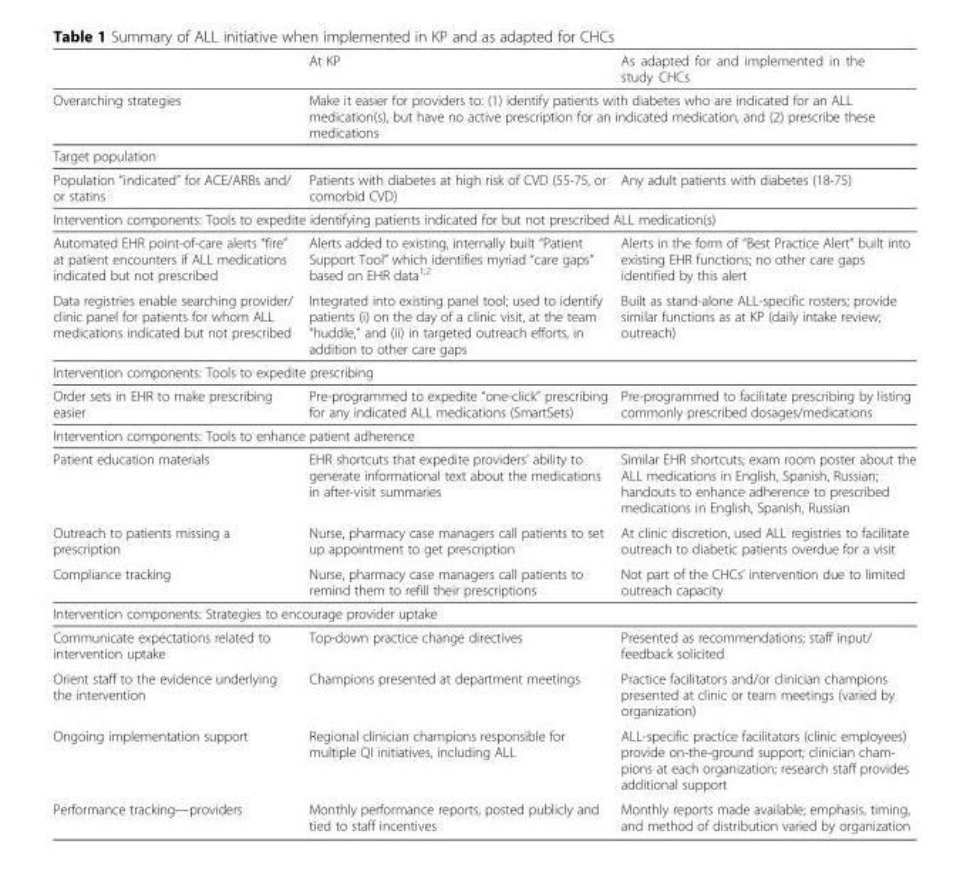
<table><thead><tr><td></td><td>At KP</td><td>As adapted for and implemented in the study CHCs</td></tr></thead><tbody><tr><td>Overarching strategies</td><td colspan="2">Make it easier for providers to: (1) identify patients with diabetes who are indicated for an ALL medication(s), but have no active prescription for an indicated medication, and (2) prescribe these medications</td></tr><tr><td colspan="3">Target population</td></tr><tr><td>Population “indicated” for ACE/ARBs and/ or statins</td><td>Patients with diabetes at high risk of CVD (55-75, or comorbid CVD)</td><td>Any adult patients with diabetes (18-75)</td></tr><tr><td colspan="3">Intervention components: Tools to expedite identifying patients indicated for but not prescribed ALL medication(s)</td></tr><tr><td>Automated EHR point-of-care alerts “fire” at patient encounters if ALL medications indicated but not prescribed</td><td>Alerts added to existing, internally built “Patient Support Tool” which identifies myriad “care gaps” based on EHR data<sup>1;2</sup></td><td>Alerts in the form of “Best Practice Alert” built into existing EHR functions; no other care gaps identified by this alert</td></tr><tr><td>Data registries enable searching provider/ clinic panel for patients for whom ALL medications indicated but not prescribed</td><td>Integrated into existing panel tool; used to identify patients (i) on the day of a clinic visit, at the team “huddle,” and (ii) in targeted outreach efforts, in addition to other care gaps</td><td>Built as stand-alone ALL-specific rosters; provide similar functions as at KP (daily intake review; outreach)</td></tr><tr><td colspan="3">Intervention components: Tools to expedite prescribing</td></tr><tr><td>Order sets in EHR to make prescribing easier</td><td>Pre-programmed to expedite “one-click” prescribing for any indicated ALL medications (SmartSets)</td><td>Pre-programmed to facilitate prescribing by listing commonly prescribed dosages/medications</td></tr><tr><td colspan="3">Intervention components: Tools to enhance patient adherence</td></tr><tr><td>Patient education materials</td><td>EHR shortcuts that expedite providers’ ability to generate informational text about the medications in after-visit summaries</td><td>Similar EHR shortcuts; exam room poster about the ALL medications in English, Spanish, Russian; handouts to enhance adherence to prescribed medications in English, Spanish, Russian</td></tr><tr><td>Outreach to patients missing a prescription</td><td>Nurse, pharmacy case managers call patients to set up appointment to get prescription</td><td>At clinic discretion, used ALL registries to facilitate outreach to diabetic patients overdue for a visit</td></tr><tr><td>Compliance tracking</td><td>Nurse, pharmacy case managers call patients to remind them to refill their prescriptions</td><td>Not part of the CHCs’ intervention due to limited outreach capacity</td></tr><tr><td colspan="3">Intervention components: Strategies to encourage provider uptake</td></tr><tr><td>Communicate expectations related to intervention uptake</td><td>Top-down practice change directives</td><td>Presented as recommendations; staff input/ feedback solicited</td></tr><tr><td>Orient staff to the evidence underlying the intervention</td><td>Champions presented at department meetings</td><td>Practice facilitators and/or clinician champions presented at clinic or team meetings (varied by organization)</td></tr><tr><td>Ongoing implementation support</td><td>Regional clinician champions responsible for multiple QI initiatives, including ALL</td><td>ALL-specific practice facilitators (clinic employees) provide on-the-ground support; clinician cham- pions at each organization; research staff provides additional support</td></tr><tr><td>Performance tracking—providers</td><td>Monthly performance reports, posted publicly and tied to staff incentives</td><td>Monthly reports made available; emphasis, timing, and method of distribution varied by organization</td></tr></tbody></table>